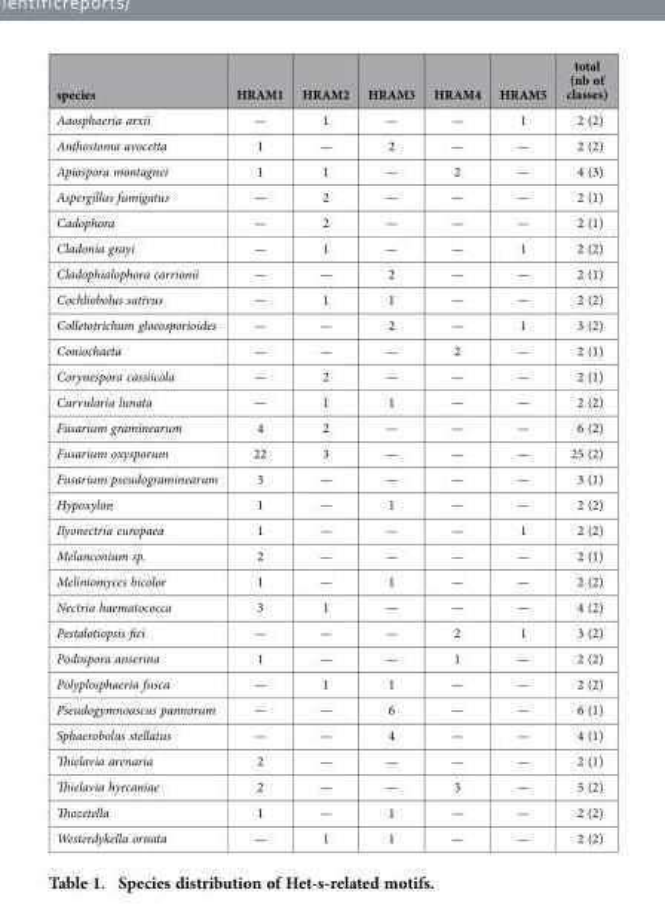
<table><thead><tr><td>species</td><td>HRAM1</td><td>HRAM2</td><td>HRAM3</td><td>HRAM4</td><td>HRAM5</td><td>total (nb of classes)</td></tr></thead><tbody><tr><td>Aaosphaeria arxii</td><td>—</td><td>1</td><td>—</td><td>—</td><td>1</td><td>2 (2)</td></tr><tr><td>Anthostoma avocetta</td><td>1</td><td>—</td><td>2</td><td>—</td><td>—</td><td>2 (2)</td></tr><tr><td>Apiospora montagnei</td><td>1</td><td>1</td><td>—</td><td>2</td><td>—</td><td>4 (3)</td></tr><tr><td>Aspergillus fumigatus</td><td>—</td><td>2</td><td>—</td><td>—</td><td>—</td><td>2 (1)</td></tr><tr><td>Cadophora</td><td>—</td><td>2</td><td>—</td><td>—</td><td>—</td><td>2 (1)</td></tr><tr><td>Cladonia grayi</td><td>—</td><td>1</td><td>—</td><td>—</td><td>1</td><td>2 (2)</td></tr><tr><td>Cladophialophora carrionii</td><td>—</td><td>—</td><td>2</td><td>—</td><td>—</td><td>2 (1)</td></tr><tr><td>Cochliobolus sativus</td><td>—</td><td>1</td><td>1</td><td>—</td><td>—</td><td>2 (2)</td></tr><tr><td>Colletotrichum gloeosporioides</td><td>—</td><td>—</td><td>2</td><td>—</td><td>1</td><td>3 (2)</td></tr><tr><td>Coniochaeta</td><td>—</td><td>—</td><td>—</td><td>2</td><td>—</td><td>2 (1)</td></tr><tr><td>Corynespora cassiicola</td><td>—</td><td>2</td><td>—</td><td>—</td><td>—</td><td>2 (1)</td></tr><tr><td>Curvularia lunata</td><td>—</td><td>1</td><td>1</td><td>—</td><td>—</td><td>2 (2)</td></tr><tr><td>Fusarium graminearum</td><td>4</td><td>2</td><td>—</td><td>—</td><td>—</td><td>6 (2)</td></tr><tr><td>Fusarium oxysporum</td><td>22</td><td>3</td><td>—</td><td>—</td><td>—</td><td>25 (2)</td></tr><tr><td>Fusarium pseudograminearum</td><td>3</td><td>—</td><td>—</td><td>—</td><td>—</td><td>3 (1)</td></tr><tr><td>Hypoxylon</td><td>1</td><td>—</td><td>1</td><td>—</td><td>—</td><td>2 (2)</td></tr><tr><td>Ilyonectria europaea</td><td>1</td><td>—</td><td>—</td><td>—</td><td>1</td><td>2 (2)</td></tr><tr><td>Melanconium sp.</td><td>2</td><td>—</td><td>—</td><td>—</td><td>—</td><td>2 (1)</td></tr><tr><td>Meliniomyces bicolor</td><td>1</td><td>—</td><td>1</td><td>—</td><td>—</td><td>2 (2)</td></tr><tr><td>Nectria haematococca</td><td>3</td><td>1</td><td>—</td><td>—</td><td>—</td><td>4 (2)</td></tr><tr><td>Pestalotiopsis fici</td><td>—</td><td>—</td><td>—</td><td>2</td><td>1</td><td>3 (2)</td></tr><tr><td>Podospora anserina</td><td>1</td><td>—</td><td>—</td><td>1</td><td>—</td><td>2 (2)</td></tr><tr><td>Polyplosphaeria fusca</td><td>—</td><td>1</td><td>1</td><td>—</td><td>—</td><td>2 (2)</td></tr><tr><td>Pseudogymnoascus pannorum</td><td>—</td><td>—</td><td>6</td><td>—</td><td>—</td><td>6 (1)</td></tr><tr><td>Sphaerobolus stellatus</td><td>—</td><td>—</td><td>4</td><td>—</td><td>—</td><td>4 (1)</td></tr><tr><td>Thielavia arenaria</td><td>2</td><td>—</td><td>—</td><td>—</td><td>—</td><td>2 (1)</td></tr><tr><td>Thielavia hyrcaniae</td><td>2</td><td>—</td><td>—</td><td>3</td><td>—</td><td>5 (2)</td></tr><tr><td>Thozetella</td><td>1</td><td>—</td><td>1</td><td>—</td><td>—</td><td>2 (2)</td></tr><tr><td>Westerdykella ornata</td><td>—</td><td>1</td><td>1</td><td>—</td><td>—</td><td>2 (2)</td></tr></tbody></table>